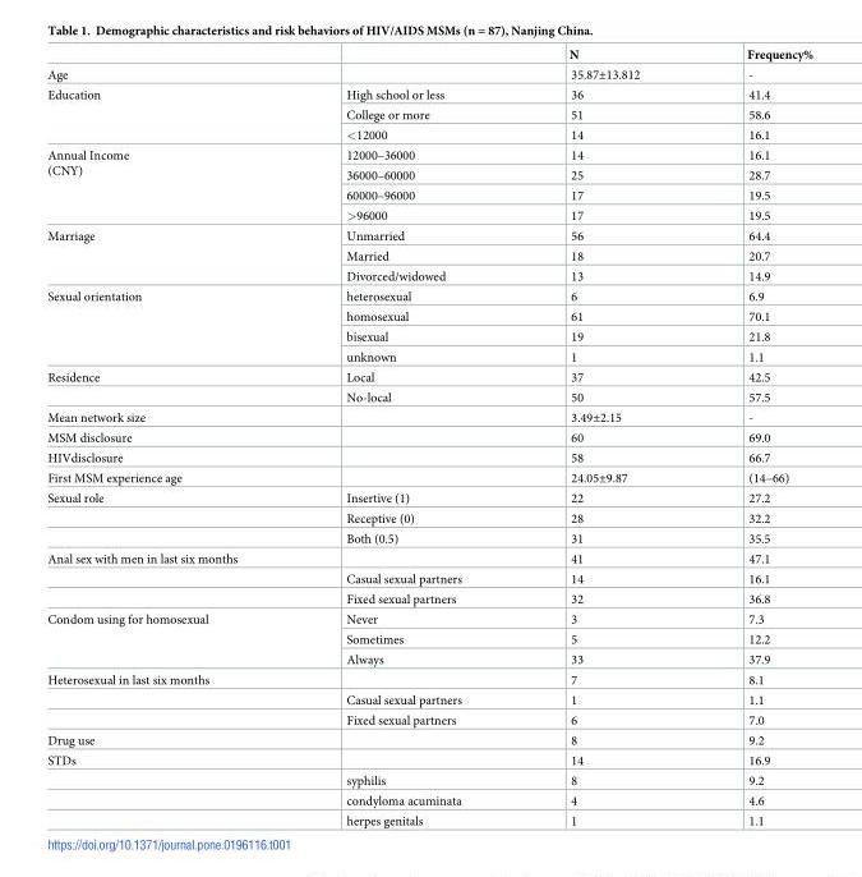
<table><thead><tr><td></td><td></td><td>N</td><td>Frequency%</td></tr></thead><tbody><tr><td>Age</td><td></td><td>35.87±13.812</td><td>-</td></tr><tr><td rowspan="3">Education</td><td>High school or less</td><td>36</td><td>41.4</td></tr><tr><td>College or more</td><td>51</td><td>58.6</td></tr><tr><td>&lt;12000</td><td>14</td><td>16.1</td></tr><tr><td rowspan="4">Annual Income (CNY)</td><td>12000–36000</td><td>14</td><td>16.1</td></tr><tr><td>36000–60000</td><td>25</td><td>28.7</td></tr><tr><td>60000–96000</td><td>17</td><td>19.5</td></tr><tr><td>&gt;96000</td><td>17</td><td>19.5</td></tr><tr><td rowspan="3">Marriage</td><td>Unmarried</td><td>56</td><td>64.4</td></tr><tr><td>Married</td><td>18</td><td>20.7</td></tr><tr><td>Divorced/widowed</td><td>13</td><td>14.9</td></tr><tr><td rowspan="4">Sexual orientation</td><td>heterosexual</td><td>6</td><td>6.9</td></tr><tr><td>homosexual</td><td>61</td><td>70.1</td></tr><tr><td>bisexual</td><td>19</td><td>21.8</td></tr><tr><td>unknown</td><td>1</td><td>1.1</td></tr><tr><td rowspan="2">Residence</td><td>Local</td><td>37</td><td>42.5</td></tr><tr><td>No-local</td><td>50</td><td>57.5</td></tr><tr><td>Mean network size</td><td></td><td>3.49±2.15</td><td>-</td></tr><tr><td>MSM disclosure</td><td></td><td>60</td><td>69.0</td></tr><tr><td>HIVdisclosure</td><td></td><td>58</td><td>66.7</td></tr><tr><td>First MSM experience age</td><td></td><td>24.05±9.87</td><td>(14–66)</td></tr><tr><td rowspan="3">Sexual role</td><td>Insertive (1)</td><td>22</td><td>27.2</td></tr><tr><td>Receptive (0)</td><td>28</td><td>32.2</td></tr><tr><td>Both (0.5)</td><td>31</td><td>35.5</td></tr><tr><td rowspan="3">Anal sex with men in last six months</td><td></td><td>41</td><td>47.1</td></tr><tr><td>Casual sexual partners</td><td>14</td><td>16.1</td></tr><tr><td>Fixed sexual partners</td><td>32</td><td>36.8</td></tr><tr><td rowspan="3">Condom using for homosexual</td><td>Never</td><td>3</td><td>7.3</td></tr><tr><td>Sometimes</td><td>5</td><td>12.2</td></tr><tr><td>Always</td><td>33</td><td>37.9</td></tr><tr><td rowspan="3">Heterosexual in last six months</td><td></td><td>7</td><td>8.1</td></tr><tr><td>Casual sexual partners</td><td>1</td><td>1.1</td></tr><tr><td>Fixed sexual partners</td><td>6</td><td>7.0</td></tr><tr><td>Drug use</td><td></td><td>8</td><td>9.2</td></tr><tr><td rowspan="4">STDs</td><td></td><td>14</td><td>16.9</td></tr><tr><td>syphilis</td><td>8</td><td>9.2</td></tr><tr><td>condyloma acuminata</td><td>4</td><td>4.6</td></tr><tr><td>herpes genitals</td><td>1</td><td>1.1</td></tr></tbody></table>